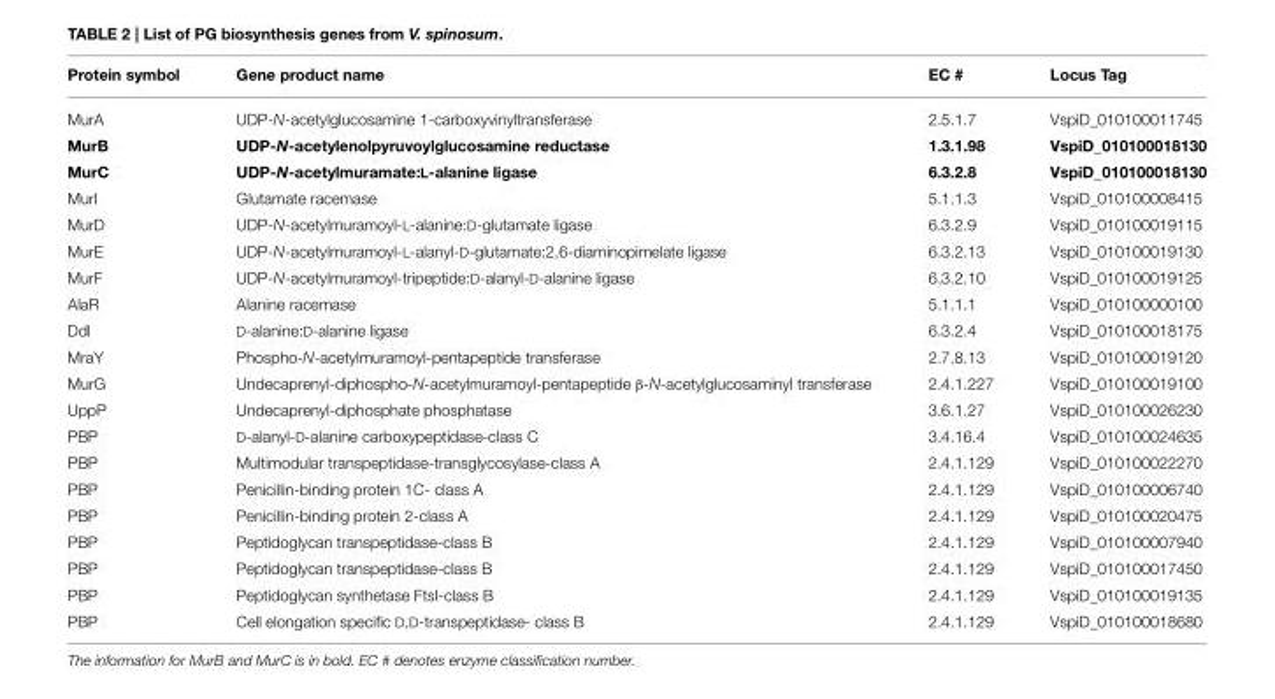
<table><thead><tr><td>Protein symbol</td><td>Gene product name</td><td>EC #</td><td>Locus Tag</td></tr></thead><tbody><tr><td>MurA</td><td>UDP-N-acetylglucosamine 1-carboxyvinyltransferase</td><td>2.5.1.7</td><td>VspiD_010100011745</td></tr><tr><td>MurB</td><td>UDP-N-acetylenolpyruvoylglucosamine reductase</td><td>1.3.1.98</td><td>VspiD_010100018130</td></tr><tr><td>MurC</td><td>UDP-N-acetylmuramate:L-alanine ligase</td><td>6.3.2.8</td><td>VspiD_010100018130</td></tr><tr><td>MurI</td><td>Glutamate racemase</td><td>5.1.1.3</td><td>VspiD_010100008415</td></tr><tr><td>MurD</td><td>UDP-N-acetylmuramoyl-L-alanine:D-glutamate ligase</td><td>6.3.2.9</td><td>VspiD_010100019115</td></tr><tr><td>MurE</td><td>UDP-N-acetylmuramoyl-L-alanyl-D-glutamate:2,6-diaminopimelate ligase</td><td>6.3.2.13</td><td>VspiD_010100019130</td></tr><tr><td>MurF</td><td>UDP-N-acetylmuramoyl-tripeptide:D-alanyl-D-alanine ligase</td><td>6.3.2.10</td><td>VspiD_010100019125</td></tr><tr><td>AlaR</td><td>Alanine racemase</td><td>5.1.1.1</td><td>VspiD_010100000100</td></tr><tr><td>Ddl</td><td>D-alanine:D-alanine ligase</td><td>6.3.2.4</td><td>VspiD_010100018175</td></tr><tr><td>MraY</td><td>Phospho-N-acetylmuramoyl-pentapeptide transferase</td><td>2.7.8.13</td><td>VspiD_010100019120</td></tr><tr><td>MurG</td><td>Undecaprenyl-diphospho-N-acetylmuramoyl-pentapeptide β-N-acetylglucosaminyl transferase</td><td>2.4.1.227</td><td>VspiD_010100019100</td></tr><tr><td>UppP</td><td>Undecaprenyl-diphosphate phosphatase</td><td>3.6.1.27</td><td>VspiD_010100026230</td></tr><tr><td>PBP</td><td>D-alanyl-D-alanine carboxypeptidase-class C</td><td>3.4.16.4</td><td>VspiD_010100024635</td></tr><tr><td>PBP</td><td>Multimodular transpeptidase-transglycosylase-class A</td><td>2.4.1.129</td><td>VspiD_010100022270</td></tr><tr><td>PBP</td><td>Penicillin-binding protein 1C- class A</td><td>2.4.1.129</td><td>VspiD_010100006740</td></tr><tr><td>PBP</td><td>Penicillin-binding protein 2-class A</td><td>2.4.1.129</td><td>VspiD_010100020475</td></tr><tr><td>PBP</td><td>Peptidoglycan transpeptidase-class B</td><td>2.4.1.129</td><td>VspiD_010100007940</td></tr><tr><td>PBP</td><td>Peptidoglycan transpeptidase-class B</td><td>2.4.1.129</td><td>VspiD_010100017450</td></tr><tr><td>PBP</td><td>Peptidoglycan synthetase FtsI-class B</td><td>2.4.1.129</td><td>VspiD_010100019135</td></tr><tr><td>PBP</td><td>Cell elongation specific D,D-transpeptidase- class B</td><td>2.4.1.129</td><td>VspiD_010100018680</td></tr></tbody></table>